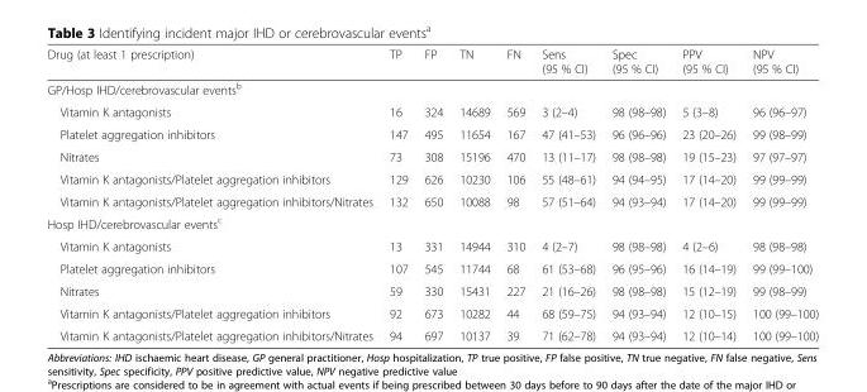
<table><thead><tr><td>Drug (at least 1 prescription)</td><td>TP</td><td>FP</td><td>TN</td><td>FN</td><td>Sens (95 % CI)</td><td>Spec (95 % CI)</td><td>PPV (95 % CI)</td><td>NPV (95 % CI)</td></tr></thead><tbody><tr><td colspan="9">GP/Hosp IHD/cerebrovascular events<sup>b</sup></td></tr><tr><td>Vitamin K antagonists</td><td>16</td><td>324</td><td>14689</td><td>569</td><td>3 (2–4)</td><td>98 (98–98)</td><td>5 (3–8)</td><td>96 (96–97)</td></tr><tr><td>Platelet aggregation inhibitors</td><td>147</td><td>495</td><td>11654</td><td>167</td><td>47 (41–53)</td><td>96 (96–96)</td><td>23 (20–26)</td><td>99 (98–99)</td></tr><tr><td>Nitrates</td><td>73</td><td>308</td><td>15196</td><td>470</td><td>13 (11–17)</td><td>98 (98–98)</td><td>19 (15–23)</td><td>97 (97–97)</td></tr><tr><td>Vitamin K antagonists/Platelet aggregation inhibitors</td><td>129</td><td>626</td><td>10230</td><td>106</td><td>55 (48–61)</td><td>94 (94–95)</td><td>17 (14–20)</td><td>99 (99–99)</td></tr><tr><td>Vitamin K antagonists/Platelet aggregation inhibitors/Nitrates</td><td>132</td><td>650</td><td>10088</td><td>98</td><td>57 (51–64)</td><td>94 (93–94)</td><td>17 (14–20)</td><td>99 (99–99)</td></tr><tr><td colspan="9">Hosp IHD/cerebrovascular events<sup>c</sup></td></tr><tr><td>Vitamin K antagonists</td><td>13</td><td>331</td><td>14944</td><td>310</td><td>4 (2–7)</td><td>98 (98–98)</td><td>4 (2–6)</td><td>98 (98–98)</td></tr><tr><td>Platelet aggregation inhibitors</td><td>107</td><td>545</td><td>11744</td><td>68</td><td>61 (53–68)</td><td>96 (95–96)</td><td>16 (14–19)</td><td>99 (99–100)</td></tr><tr><td>Nitrates</td><td>59</td><td>330</td><td>15431</td><td>227</td><td>21 (16–26)</td><td>98 (98–98)</td><td>15 (12–19)</td><td>99 (98–99)</td></tr><tr><td>Vitamin K antagonists/Platelet aggregation inhibitors</td><td>92</td><td>673</td><td>10282</td><td>44</td><td>68 (59–75)</td><td>94 (93–94)</td><td>12 (10–15)</td><td>100 (99–100)</td></tr><tr><td>Vitamin K antagonists/Platelet aggregation inhibitors/Nitrates</td><td>94</td><td>697</td><td>10137</td><td>39</td><td>71 (62–78)</td><td>94 (93–94)</td><td>12 (10–14)</td><td>100 (99–100)</td></tr></tbody></table>